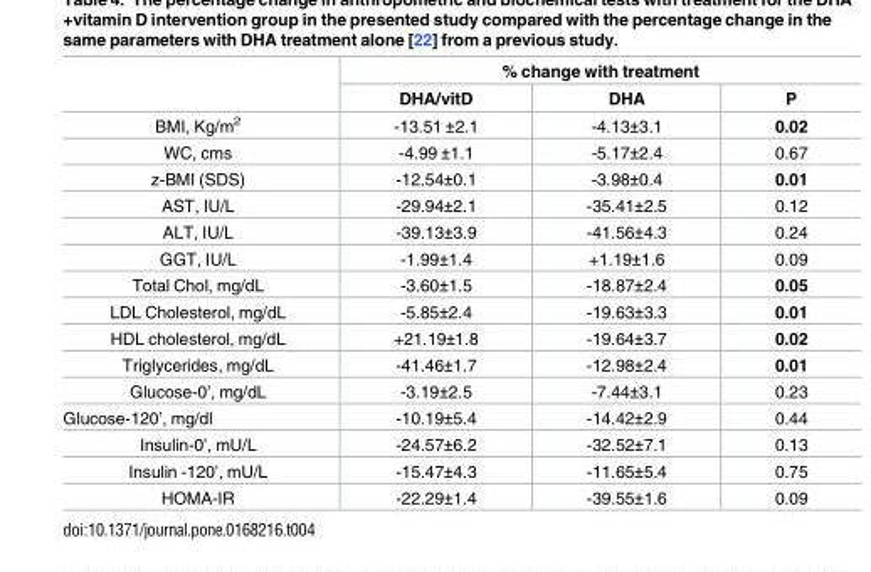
<table><thead><tr><td rowspan="2"></td><td colspan="3">% change with treatment</td></tr><tr><td>DHA/vitD</td><td>DHA</td><td>P</td></tr></thead><tbody><tr><td>BMI, Kg/m<sup>2</sup></td><td>-13.51 ±2.1</td><td>-4.13±3.1</td><td>0.02</td></tr><tr><td>WC, cms</td><td>-4.99 ±1.1</td><td>-5.17±2.4</td><td>0.67</td></tr><tr><td>z-BMI (SDS)</td><td>-12.54±0.1</td><td>-3.98±0.4</td><td>0.01</td></tr><tr><td>AST, IU/L</td><td>-29.94±2.1</td><td>-35.41±2.5</td><td>0.12</td></tr><tr><td>ALT, IU/L</td><td>-39.13±3.9</td><td>-41.56±4.3</td><td>0.24</td></tr><tr><td>GGT, IU/L</td><td>-1.99±1.4</td><td>+1.19±1.6</td><td>0.09</td></tr><tr><td>Total Chol, mg/dL</td><td>-3.60±1.5</td><td>-18.87±2.4</td><td>0.05</td></tr><tr><td>LDL Cholesterol, mg/dL</td><td>-5.85±2.4</td><td>-19.63±3.3</td><td>0.01</td></tr><tr><td>HDL cholesterol, mg/dL</td><td>+21.19±1.8</td><td>-19.64±3.7</td><td>0.02</td></tr><tr><td>Triglycerides, mg/dL</td><td>-41.46±1.7</td><td>-12.98±2.4</td><td>0.01</td></tr><tr><td>Glucose-0’, mg/dL</td><td>-3.19±2.5</td><td>-7.44±3.1</td><td>0.23</td></tr><tr><td>Glucose-120’, mg/dl</td><td>-10.19±5.4</td><td>-14.42±2.9</td><td>0.44</td></tr><tr><td>Insulin-0’, mU/L</td><td>-24.57±6.2</td><td>-32.52±7.1</td><td>0.13</td></tr><tr><td>Insulin -120’, mU/L</td><td>-15.47±4.3</td><td>-11.65±5.4</td><td>0.75</td></tr><tr><td>HOMA-IR</td><td>-22.29±1.4</td><td>-39.55±1.6</td><td>0.09</td></tr></tbody></table>